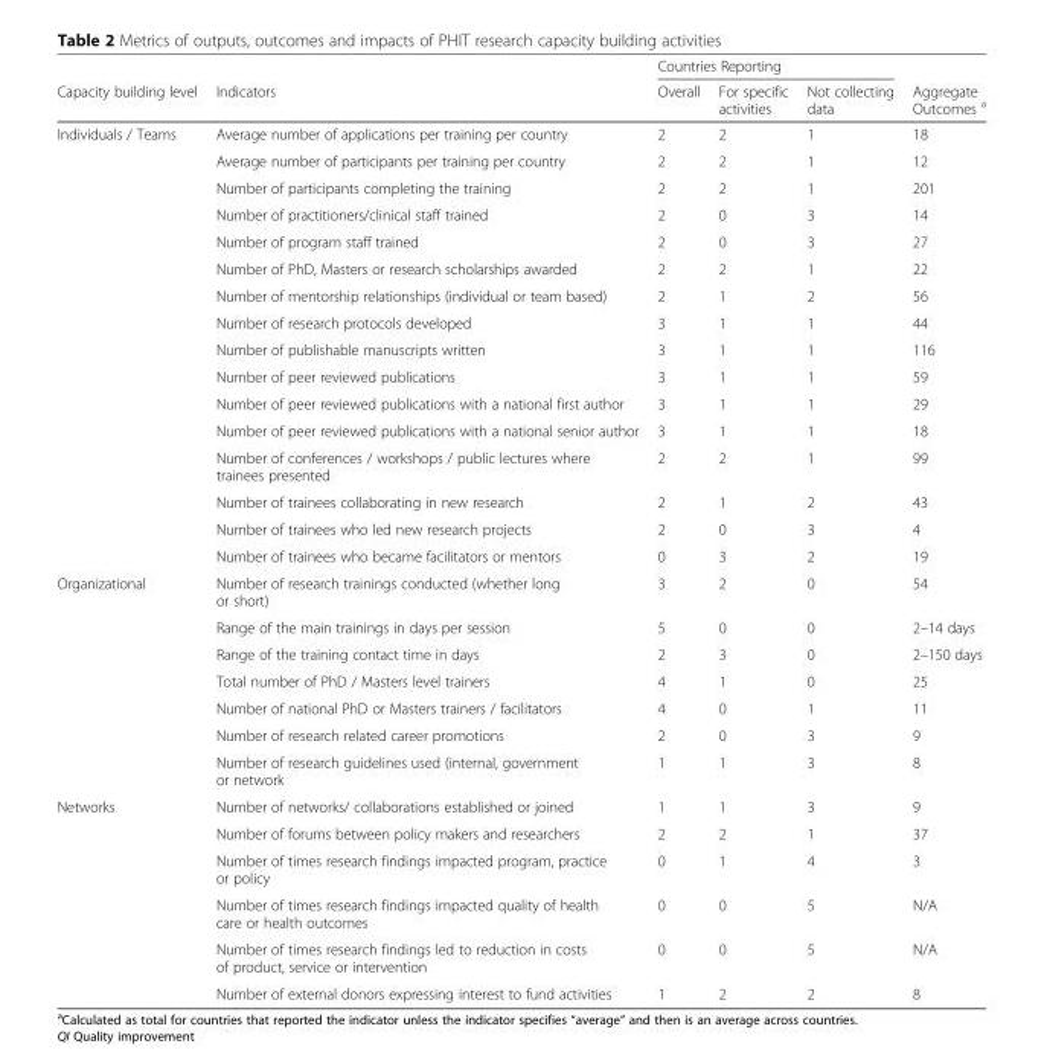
<table><thead><tr><td rowspan="2">Capacity building level</td><td rowspan="2">Indicators</td><td colspan="3">Countries Reporting</td><td rowspan="2">Aggregate Outcomes <sup>a</sup></td></tr><tr><td>Overall</td><td>For specific activities</td><td>Not collecting data</td></tr></thead><tbody><tr><td rowspan="16">Individuals / Teams</td><td>Average number of applications per training per country</td><td>2</td><td>2</td><td>1</td><td>18</td></tr><tr><td>Average number of participants per training per country</td><td>2</td><td>2</td><td>1</td><td>12</td></tr><tr><td>Number of participants completing the training</td><td>2</td><td>2</td><td>1</td><td>201</td></tr><tr><td>Number of practitioners/clinical staff trained</td><td>2</td><td>0</td><td>3</td><td>14</td></tr><tr><td>Number of program staff trained</td><td>2</td><td>0</td><td>3</td><td>27</td></tr><tr><td>Number of PhD, Masters or research scholarships awarded</td><td>2</td><td>2</td><td>1</td><td>22</td></tr><tr><td>Number of mentorship relationships (individual or team based)</td><td>2</td><td>1</td><td>2</td><td>56</td></tr><tr><td>Number of research protocols developed</td><td>3</td><td>1</td><td>1</td><td>44</td></tr><tr><td>Number of publishable manuscripts written</td><td>3</td><td>1</td><td>1</td><td>116</td></tr><tr><td>Number of peer reviewed publications</td><td>3</td><td>1</td><td>1</td><td>59</td></tr><tr><td>Number of peer reviewed publications with a national first author</td><td>3</td><td>1</td><td>1</td><td>29</td></tr><tr><td>Number of peer reviewed publications with a national senior author</td><td>3</td><td>1</td><td>1</td><td>18</td></tr><tr><td>Number of conferences / workshops / public lectures where trainees presented</td><td>2</td><td>2</td><td>1</td><td>99</td></tr><tr><td>Number of trainees collaborating in new research</td><td>2</td><td>1</td><td>2</td><td>43</td></tr><tr><td>Number of trainees who led new research projects</td><td>2</td><td>0</td><td>3</td><td>4</td></tr><tr><td>Number of trainees who became facilitators or mentors</td><td>0</td><td>3</td><td>2</td><td>19</td></tr><tr><td rowspan="7">Organizational</td><td>Number of research trainings conducted (whether long or short)</td><td>3</td><td>2</td><td>0</td><td>54</td></tr><tr><td>Range of the main trainings in days per session</td><td>5</td><td>0</td><td>0</td><td>2–14 days</td></tr><tr><td>Range of the training contact time in days</td><td>2</td><td>3</td><td>0</td><td>2–150 days</td></tr><tr><td>Total number of PhD / Masters level trainers</td><td>4</td><td>1</td><td>0</td><td>25</td></tr><tr><td>Number of national PhD or Masters trainers / facilitators</td><td>4</td><td>0</td><td>1</td><td>11</td></tr><tr><td>Number of research related career promotions</td><td>2</td><td>0</td><td>3</td><td>9</td></tr><tr><td>Number of research guidelines used (internal, government or network</td><td>1</td><td>1</td><td>3</td><td>8</td></tr><tr><td rowspan="6">Networks</td><td>Number of networks/ collaborations established or joined</td><td>1</td><td>1</td><td>3</td><td>9</td></tr><tr><td>Number of forums between policy makers and researchers</td><td>2</td><td>2</td><td>1</td><td>37</td></tr><tr><td>Number of times research findings impacted program, practice or policy</td><td>0</td><td>1</td><td>4</td><td>3</td></tr><tr><td>Number of times research findings impacted quality of health care or health outcomes</td><td>0</td><td>0</td><td>5</td><td>N/A</td></tr><tr><td>Number of times research findings led to reduction in costs of product, service or intervention</td><td>0</td><td>0</td><td>5</td><td>N/A</td></tr><tr><td>Number of external donors expressing interest to fund activities</td><td>1</td><td>2</td><td>2</td><td>8</td></tr></tbody></table>